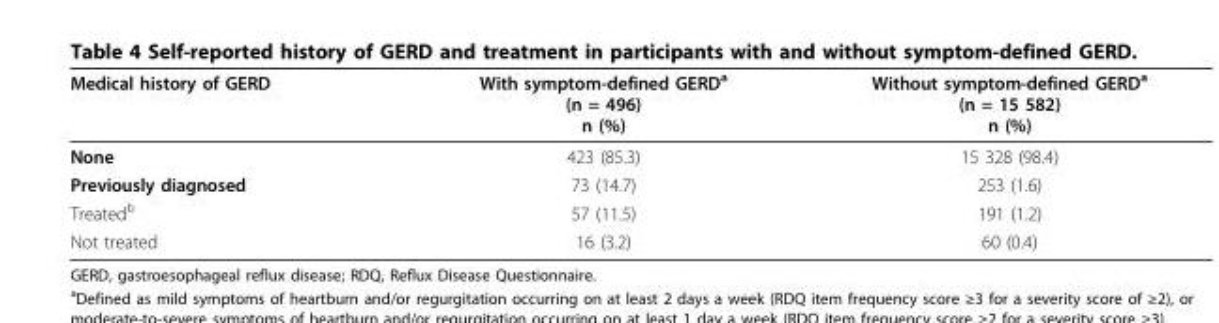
<table><thead><tr><td>Medical history of GERD</td><td>With symptom-defined GERD<sup>a</sup> (n = 496) n (%)</td><td>Without symptom-defined GERD<sup>a</sup> (n = 15 582) n (%)</td></tr></thead><tbody><tr><td>None</td><td>423 (85.3)</td><td>15 328 (98.4)</td></tr><tr><td>Previously diagnosed</td><td>73 (14.7)</td><td>253 (1.6)</td></tr><tr><td>Treated<sup>b</sup></td><td>57 (11.5)</td><td>191 (1.2)</td></tr><tr><td>Not treated</td><td>16 (3.2)</td><td>60 (0.4)</td></tr></tbody></table>